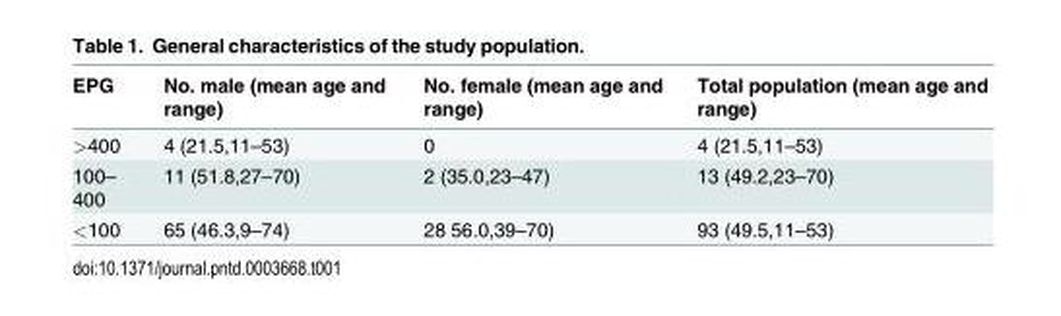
<table><thead><tr><td>EPG</td><td>No. male (mean age and range)</td><td>No. female (mean age and range)</td><td>Total population (mean age and range)</td></tr></thead><tbody><tr><td>&gt;400</td><td>4 (21.5,11–53)</td><td>0</td><td>4 (21.5,11–53)</td></tr><tr><td>100– 400</td><td>11 (51.8,27–70)</td><td>2 (35.0,23–47)</td><td>13 (49.2,23–70)</td></tr><tr><td>&lt;100</td><td>65 (46.3,9–74)</td><td>28 56.0,39–70)</td><td>93 (49.5,11–53)</td></tr></tbody></table>